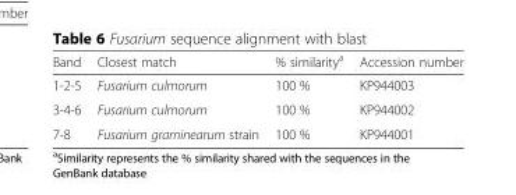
<table><thead><tr><td>Band</td><td>Closest match</td><td>% similarity<sup>a</sup></td><td>Accession number</td></tr></thead><tbody><tr><td>1-2-5</td><td>Fusarium culmorum</td><td>100 %</td><td>KP944003</td></tr><tr><td>3-4-6</td><td>Fusarium culmorum</td><td>100 %</td><td>KP944002</td></tr><tr><td>7-8</td><td>Fusarium graminearum strain</td><td>100 %</td><td>KP944001</td></tr></tbody></table>